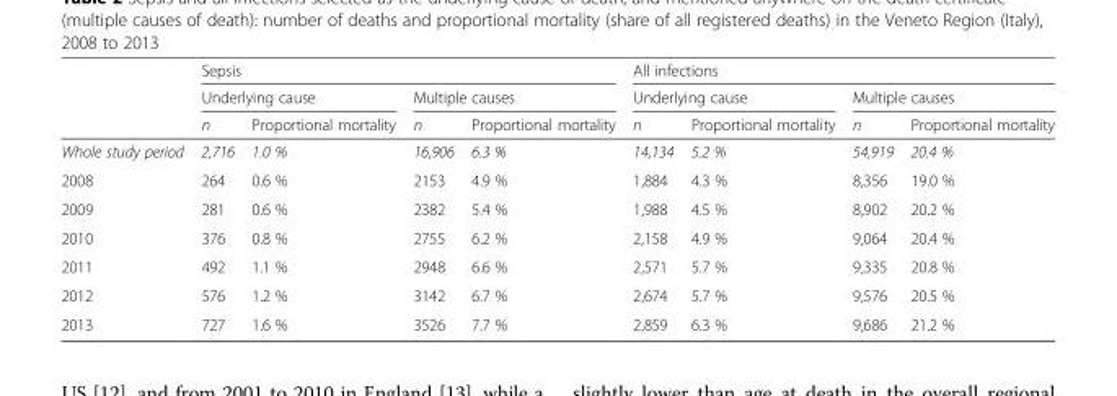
<table><thead><tr><td rowspan="3"></td><td colspan="4">Sepsis</td><td colspan="4">All infections</td></tr><tr><td colspan="2">Underlying cause</td><td colspan="2">Multiple causes</td><td colspan="2">Underlying cause</td><td colspan="2">Multiple causes</td></tr><tr><td>n</td><td>Proportional mortality</td><td>n</td><td>Proportional mortality</td><td>n</td><td>Proportional mortality</td><td>n</td><td>Proportional mortality</td></tr></thead><tbody><tr><td>Whole study period</td><td>2,716</td><td>1.0 %</td><td>16,906</td><td>6.3 %</td><td>14,134</td><td>5.2 %</td><td>54,919</td><td>20.4 %</td></tr><tr><td>2008</td><td>264</td><td>0.6 %</td><td>2153</td><td>4.9 %</td><td>1,884</td><td>4.3 %</td><td>8,356</td><td>19.0 %</td></tr><tr><td>2009</td><td>281</td><td>0.6 %</td><td>2382</td><td>5.4 %</td><td>1,988</td><td>4.5 %</td><td>8,902</td><td>20.2 %</td></tr><tr><td>2010</td><td>376</td><td>0.8 %</td><td>2755</td><td>6.2 %</td><td>2,158</td><td>4.9 %</td><td>9,064</td><td>20.4 %</td></tr><tr><td>2011</td><td>492</td><td>1.1 %</td><td>2948</td><td>6.6 %</td><td>2,571</td><td>5.7 %</td><td>9,335</td><td>20.8 %</td></tr><tr><td>2012</td><td>576</td><td>1.2 %</td><td>3142</td><td>6.7 %</td><td>2,674</td><td>5.7 %</td><td>9,576</td><td>20.5 %</td></tr><tr><td>2013</td><td>727</td><td>1.6 %</td><td>3526</td><td>7.7 %</td><td>2,859</td><td>6.3 %</td><td>9,686</td><td>21.2 %</td></tr></tbody></table>